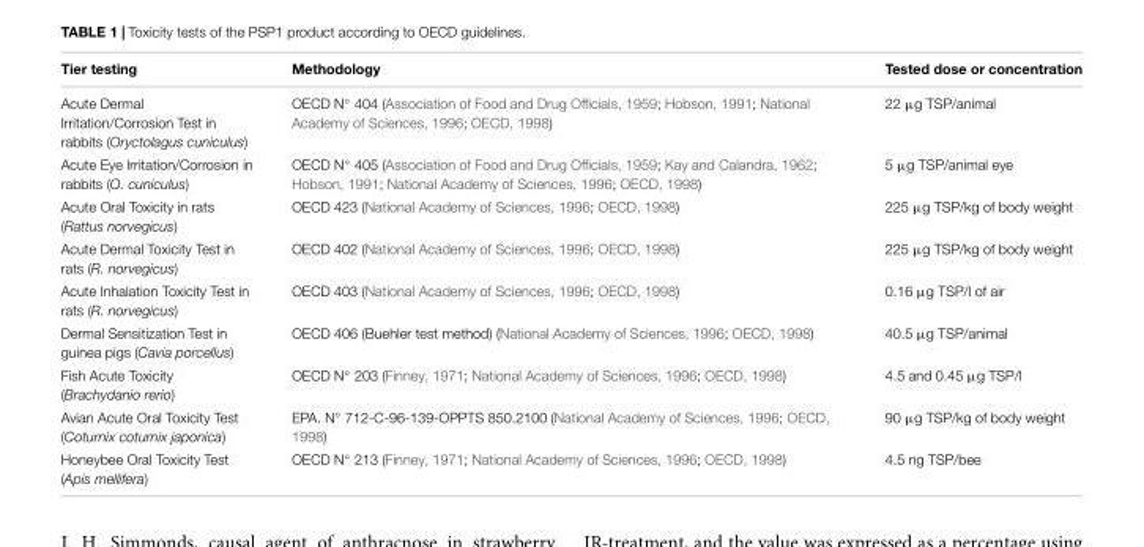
<table><thead><tr><td>Tier testing</td><td>Methodology</td><td>Tested dose or concentration</td></tr></thead><tbody><tr><td>Acute Dermal Irritation/Corrosion Test in rabbits (Oryctolagus cuniculus)</td><td>OECD N◦ 404 (Association of Food and Drug Officials, 1959; Hobson, 1991; National Academy of Sciences, 1996; OECD, 1998)</td><td>22 µg TSP/animal</td></tr><tr><td>Acute Eye Irritation/Corrosion in rabbits (O. cuniculus)</td><td>OECD N◦ 405 (Association of Food and Drug Officials, 1959; Kay and Calandra, 1962; Hobson, 1991; National Academy of Sciences, 1996; OECD, 1998)</td><td>5 µg TSP/animal eye</td></tr><tr><td>Acute Oral Toxicity in rats (Rattus norvegicus)</td><td>OECD 423 (National Academy of Sciences, 1996; OECD, 1998)</td><td>225 µg TSP/kg of body weight</td></tr><tr><td>Acute Dermal Toxicity Test in rats (R. norvegicus)</td><td>OECD 402 (National Academy of Sciences, 1996; OECD, 1998)</td><td>225 µg TSP/kg of body weight</td></tr><tr><td>Acute Inhalation Toxicity Test in rats (R. norvegicus)</td><td>OECD 403 (National Academy of Sciences, 1996; OECD, 1998)</td><td>0.16 µg TSP/l of air</td></tr><tr><td>Dermal Sensitization Test in guinea pigs (Cavia porcellus)</td><td>OECD 406 (Buehler test method) (National Academy of Sciences, 1996; OECD, 1998)</td><td>40.5 µg TSP/animal</td></tr><tr><td>Fish Acute Toxicity (Brachydanio rerio)</td><td>OECD N◦ 203 (Finney, 1971; National Academy of Sciences, 1996; OECD, 1998)</td><td>4.5 and 0.45 µg TSP/l</td></tr><tr><td>Avian Acute Oral Toxicity Test (Coturnix coturnix japonica)</td><td>EPA. N◦ 712-C-96-139-OPPTS 850.2100 (National Academy of Sciences, 1996; OECD, 1998)</td><td>90 µg TSP/kg of body weight</td></tr><tr><td>Honeybee Oral Toxicity Test (Apis mellifera)</td><td>OECD N◦ 213 (Finney, 1971; National Academy of Sciences, 1996; OECD, 1998)</td><td>4.5 ng TSP/bee</td></tr></tbody></table>